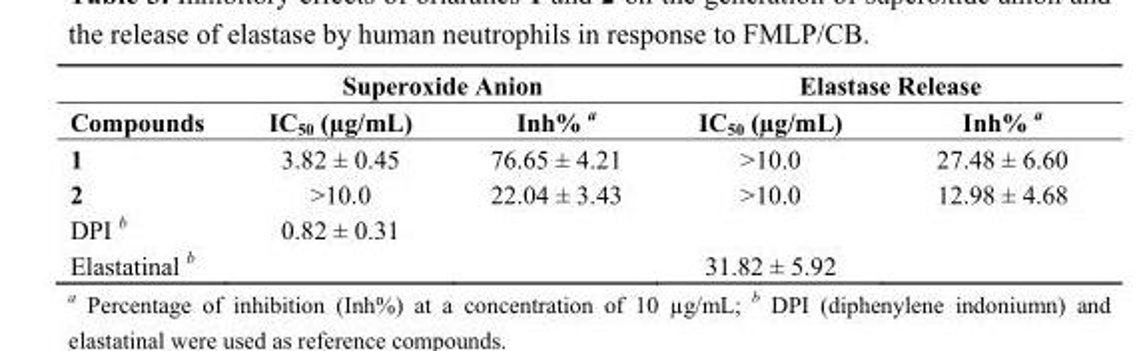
<table><thead><tr><td rowspan="2">Compounds</td><td colspan="2">Superoxide Anion</td><td colspan="2">Elastase Release</td></tr><tr><td>IC<sub>50</sub> (µg/mL)</td><td>Inh% <sup>a</sup></td><td>IC<sub>50</sub> (µg/mL)</td><td>Inh% <sup>a</sup></td></tr></thead><tbody><tr><td>1</td><td>3.82 ± 0.45</td><td>76.65 ± 4.21</td><td>&gt;10.0</td><td>27.48 ± 6.60</td></tr><tr><td>2</td><td>&gt;10.0</td><td>22.04 ± 3.43</td><td>&gt;10.0</td><td>12.98 ± 4.68</td></tr><tr><td>DPI <sup>b</sup></td><td>0.82 ± 0.31</td><td></td><td></td><td></td></tr><tr><td>Elastatinal <sup>b</sup></td><td></td><td></td><td>31.82 ± 5.92</td><td></td></tr></tbody></table>